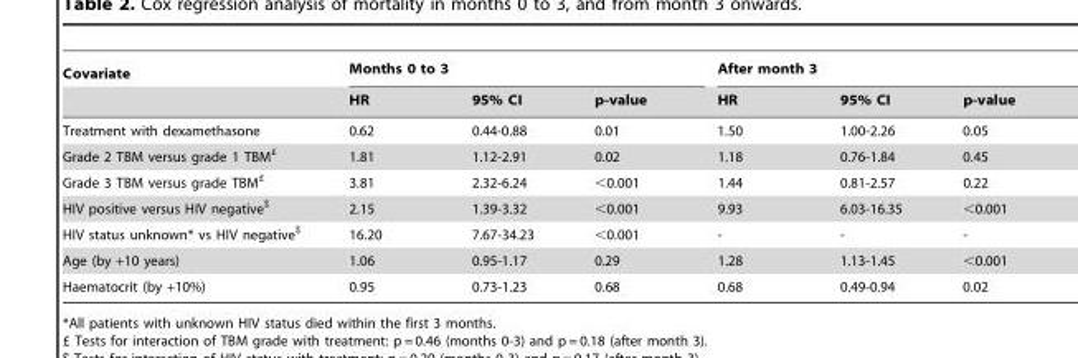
<table><thead><tr><td rowspan="2">Covariate</td><td colspan="3">Months 0 to 3</td><td colspan="3">After month 3</td></tr><tr><td>HR</td><td>95% CI</td><td>p-value</td><td>HR</td><td>95% CI</td><td>p-value</td></tr></thead><tbody><tr><td>Treatment with dexamethasone</td><td>0.62</td><td>0.44-0.88</td><td>0.01</td><td>1.50</td><td>1.00-2.26</td><td>0.05</td></tr><tr><td>Grade 2 TBM versus grade 1 TBM<sup>£</sup></td><td>1.81</td><td>1.12-2.91</td><td>0.02</td><td>1.18</td><td>0.76-1.84</td><td>0.45</td></tr><tr><td>Grade 3 TBM versus grade TBM<sup>£</sup></td><td>3.81</td><td>2.32-6.24</td><td>&lt;0.001</td><td>1.44</td><td>0.81-2.57</td><td>0.22</td></tr><tr><td>HIV positive versus HIV negative<sup>$</sup></td><td>2.15</td><td>1.39-3.32</td><td>&lt;0.001</td><td>9.93</td><td>6.03-16.35</td><td>&lt;0.001</td></tr><tr><td>HIV status unknown* vs HIV negative<sup>$</sup></td><td>16.20</td><td>7.67-34.23</td><td>&lt;0.001</td><td>-</td><td>-</td><td>-</td></tr><tr><td>Age (by +10 years)</td><td>1.06</td><td>0.95-1.17</td><td>0.29</td><td>1.28</td><td>1.13-1.45</td><td>&lt;0.001</td></tr><tr><td>Haematocrit (by +10%)</td><td>0.95</td><td>0.73-1.23</td><td>0.68</td><td>0.68</td><td>0.49-0.94</td><td>0.02</td></tr></tbody></table>